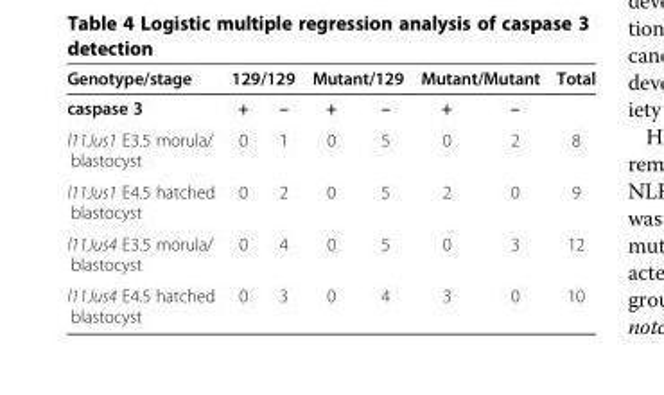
<table><thead><tr><td rowspan="2">Genotype/stage caspase 3</td><td colspan="2">129/129</td><td colspan="2">Mutant/129</td><td colspan="2">Mutant/Mutant</td><td rowspan="2">Total</td></tr><tr><td>+</td><td>–</td><td>+</td><td>–</td><td>+</td><td>–</td></tr></thead><tbody><tr><td>l11Jus1 E3.5 morula/ blastocyst</td><td>0</td><td>1</td><td>0</td><td>5</td><td>0</td><td>2</td><td>8</td></tr><tr><td>l11Jus1 E4.5 hatched blastocyst</td><td>0</td><td>2</td><td>0</td><td>5</td><td>2</td><td>0</td><td>9</td></tr><tr><td>l11Jus4 E3.5 morula/ blastocyst</td><td>0</td><td>4</td><td>0</td><td>5</td><td>0</td><td>3</td><td>12</td></tr><tr><td>l11Jus4 E4.5 hatched blastocyst</td><td>0</td><td>3</td><td>0</td><td>4</td><td>3</td><td>0</td><td>10</td></tr></tbody></table>